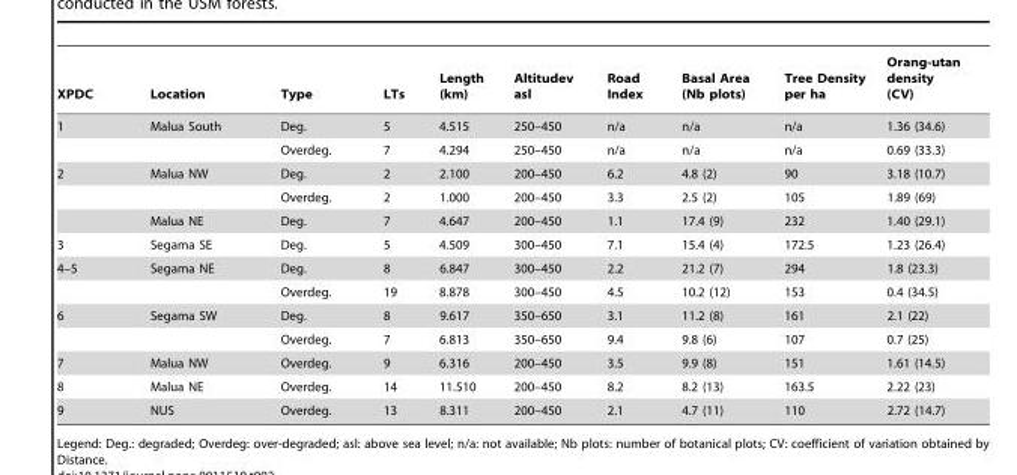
<table><thead><tr><td>XPDC</td><td>Location</td><td>Type</td><td>LTs</td><td>Length (km)</td><td>Altitudev asl</td><td>Road Index</td><td>Basal Area (Nb plots)</td><td>Tree Density per ha</td><td>Orang-utan density (CV)</td></tr></thead><tbody><tr><td rowspan="2">1</td><td>Malua South</td><td>Deg.</td><td>5</td><td>4.515</td><td>250–450</td><td>n/a</td><td>n/a</td><td>n/a</td><td>1.36 (34.6)</td></tr><tr><td></td><td>Overdeg.</td><td>7</td><td>4.294</td><td>250–450</td><td>n/a</td><td>n/a</td><td>n/a</td><td>0.69 (33.3)</td></tr><tr><td rowspan="3">2</td><td>Malua NW</td><td>Deg.</td><td>2</td><td>2.100</td><td>200–450</td><td>6.2</td><td>4.8 (2)</td><td>90</td><td>3.18 (10.7)</td></tr><tr><td></td><td>Overdeg.</td><td>2</td><td>1.000</td><td>200–450</td><td>3.3</td><td>2.5 (2)</td><td>105</td><td>1.89 (69)</td></tr><tr><td>Malua NE</td><td>Deg.</td><td>7</td><td>4.647</td><td>200–450</td><td>1.1</td><td>17.4 (9)</td><td>232</td><td>1.40 (29.1)</td></tr><tr><td>3</td><td>Segama SE</td><td>Deg.</td><td>5</td><td>4.509</td><td>300–450</td><td>7.1</td><td>15.4 (4)</td><td>172.5</td><td>1.23 (26.4)</td></tr><tr><td rowspan="2">4–5</td><td>Segama NE</td><td>Deg.</td><td>8</td><td>6.847</td><td>300–450</td><td>2.2</td><td>21.2 (7)</td><td>294</td><td>1.8 (23.3)</td></tr><tr><td></td><td>Overdeg.</td><td>19</td><td>8.878</td><td>300–450</td><td>4.5</td><td>10.2 (12)</td><td>153</td><td>0.4 (34.5)</td></tr><tr><td rowspan="2">6</td><td>Segama SW</td><td>Deg.</td><td>8</td><td>9.617</td><td>350–650</td><td>3.1</td><td>11.2 (8)</td><td>161</td><td>2.1 (22)</td></tr><tr><td></td><td>Overdeg.</td><td>7</td><td>6.813</td><td>350–650</td><td>9.4</td><td>9.8 (6)</td><td>107</td><td>0.7 (25)</td></tr><tr><td>7</td><td>Malua NW</td><td>Overdeg.</td><td>9</td><td>6.316</td><td>200–450</td><td>3.5</td><td>9.9 (8)</td><td>151</td><td>1.61 (14.5)</td></tr><tr><td>8</td><td>Malua NE</td><td>Overdeg.</td><td>14</td><td>11.510</td><td>200–450</td><td>8.2</td><td>8.2 (13)</td><td>163.5</td><td>2.22 (23)</td></tr><tr><td>9</td><td>NUS</td><td>Overdeg.</td><td>13</td><td>8.311</td><td>200–450</td><td>2.1</td><td>4.7 (11)</td><td>110</td><td>2.72 (14.7)</td></tr></tbody></table>